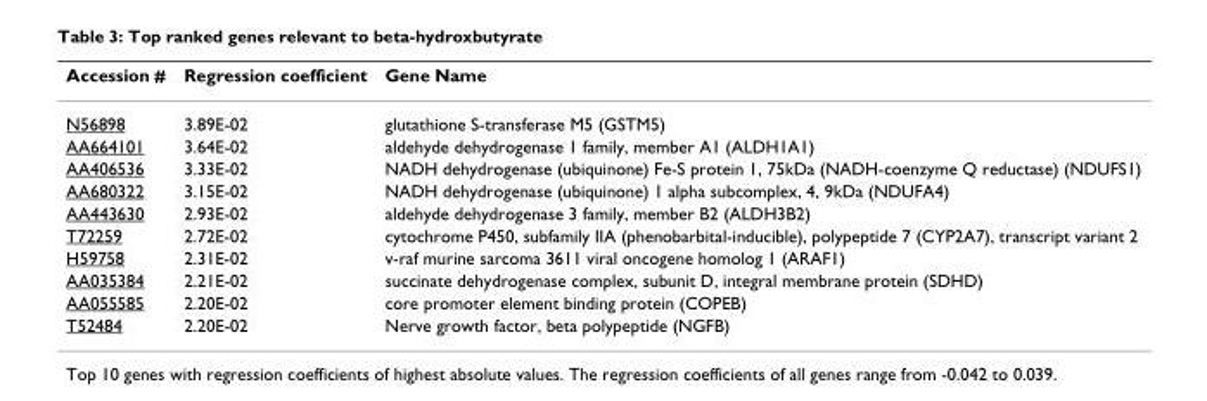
<table><thead><tr><td>Accession #</td><td>Regression coefficient</td><td>Gene Name</td></tr></thead><tbody><tr><td>N56898</td><td>3.89E-02</td><td>glutathione S-transferase M5 (GSTM5)</td></tr><tr><td>AA664101</td><td>3.64E-02</td><td>aldehyde dehydrogenase 1 family, member A1 (ALDH1A1)</td></tr><tr><td>AA406536</td><td>3.33E-02</td><td>NADH dehydrogenase (ubiquinone) Fe-S protein 1, 75kDa (NADH-coenzyme Q reductase) (NDUFS1)</td></tr><tr><td>AA680322</td><td>3.15E-02</td><td>NADH dehydrogenase (ubiquinone) 1 alpha subcomplex, 4, 9kDa (NDUFA4)</td></tr><tr><td>AA443630</td><td>2.93E-02</td><td>aldehyde dehydrogenase 3 family, member B2 (ALDH3B2)</td></tr><tr><td>T72259</td><td>2.72E-02</td><td>cytochrome P450, subfamily IIA (phenobarbital-inducible), polypeptide 7 (CYP2A7), transcript variant 2</td></tr><tr><td>H59758</td><td>2.31E-02</td><td>v-raf murine sarcoma 3611 viral oncogene homolog 1 (ARAF1)</td></tr><tr><td>AA035384</td><td>2.21E-02</td><td>succinate dehydrogenase complex, subunit D, integral membrane protein (SDHD)</td></tr><tr><td>AA055585</td><td>2.20E-02</td><td>core promoter element binding protein (COPEB)</td></tr><tr><td>T52484</td><td>2.20E-02</td><td>Nerve growth factor, beta polypeptide (NGFB)</td></tr></tbody></table>